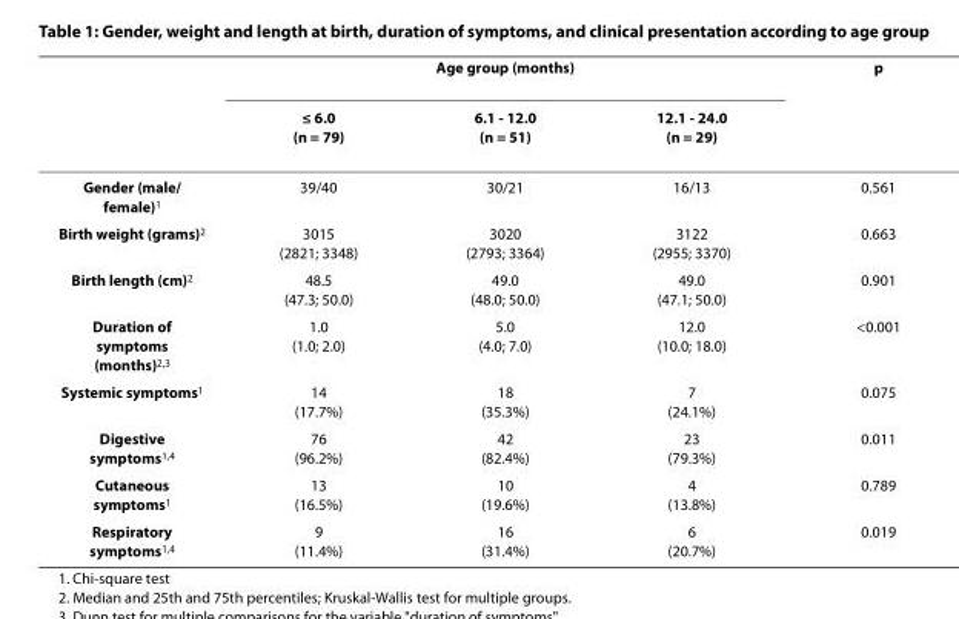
<table><thead><tr><td rowspan="2"></td><td colspan="3">Age group (months)</td><td rowspan="2">p</td></tr><tr><td>≤ 6.0 (n = 79)</td><td>6.1 - 12.0 (n = 51)</td><td>12.1 - 24.0 (n = 29)</td></tr></thead><tbody><tr><td>Gender (male/ female)<sup>1</sup></td><td>39/40</td><td>30/21</td><td>16/13</td><td>0.561</td></tr><tr><td>Birth weight (grams)<sup>2</sup></td><td>3015 (2821; 3348)</td><td>3020 (2793; 3364)</td><td>3122 (2955; 3370)</td><td>0.663</td></tr><tr><td>Birth length (cm)<sup>2</sup></td><td>48.5 (47.3; 50.0)</td><td>49.0 (48.0; 50.0)</td><td>49.0 (47.1; 50.0)</td><td>0.901</td></tr><tr><td>Duration of symptoms (months)<sup>2,3</sup></td><td>1.0 (1.0; 2.0)</td><td>5.0 (4.0; 7.0)</td><td>12.0 (10.0; 18.0)</td><td>&lt;0.001</td></tr><tr><td>Systemic symptoms<sup>1</sup></td><td>14 (17.7%)</td><td>18 (35.3%)</td><td>7 (24.1%)</td><td>0.075</td></tr><tr><td>Digestive symptoms<sup>1,4</sup></td><td>76 (96.2%)</td><td>42 (82.4%)</td><td>23 (79.3%)</td><td>0.011</td></tr><tr><td>Cutaneous symptoms<sup>1</sup></td><td>13 (16.5%)</td><td>10 (19.6%)</td><td>4 (13.8%)</td><td>0.789</td></tr><tr><td>Respiratory symptoms<sup>1,4</sup></td><td>9 (11.4%)</td><td>16 (31.4%)</td><td>6 (20.7%)</td><td>0.019</td></tr></tbody></table>